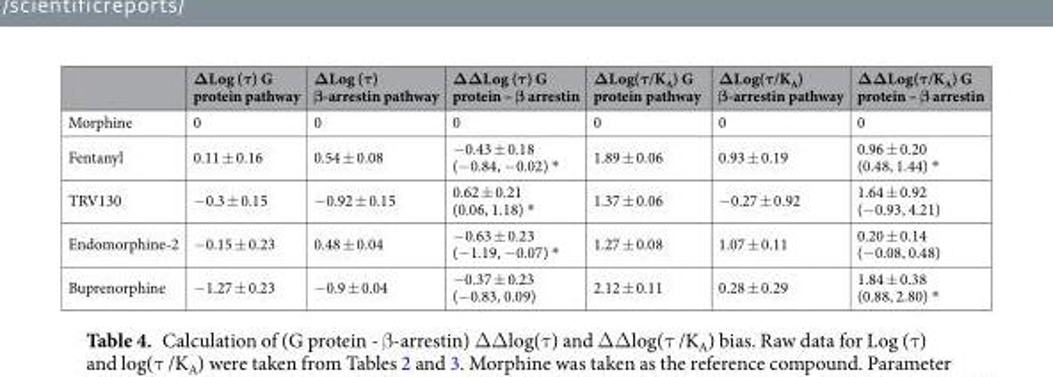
<table><thead><tr><td></td><td>ΔLog (τ) G protein pathway</td><td>ΔLog (τ) β-arrestin pathway</td><td>ΔΔLog (τ) G protein – β arrestin</td><td>ΔLog(τ/K<sub>A</sub>) G protein pathway</td><td>ΔLog(τ/K<sub>A</sub>) β-arrestin pathway</td><td>ΔΔLog(τ/K<sub>A</sub>) G protein – β arrestin</td></tr></thead><tbody><tr><td>Morphine</td><td>0</td><td>0</td><td>0</td><td>0</td><td>0</td><td>0</td></tr><tr><td>Fentanyl</td><td>0.11 ± 0.16</td><td>0.54 ± 0.08</td><td>−0.43 ± 0.18 (−0.84, −0.02) *</td><td>1.89 ± 0.06</td><td>0.93 ± 0.19</td><td>0.96 ± 0.20 (0.48, 1.44) *</td></tr><tr><td>TRV130</td><td>−0.3 ± 0.15</td><td>−0.92 ± 0.15</td><td>0.62 ± 0.21 (0.06, 1.18) *</td><td>1.37 ± 0.06</td><td>−0.27 ± 0.92</td><td>1.64 ± 0.92 (−0.93, 4.21)</td></tr><tr><td>Endomorphine-2</td><td>−0.15 ± 0.23</td><td>0.48 ± 0.04</td><td>−0.63 ± 0.23 (−1.19, −0.07) *</td><td>1.27 ± 0.08</td><td>1.07 ± 0.11</td><td>0.20 ± 0.14 (−0.08, 0.48)</td></tr><tr><td>Buprenorphine</td><td>−1.27 ± 0.23</td><td>−0.9 ± 0.04</td><td>−0.37 ± 0.23 (−0.83, 0.09)</td><td>2.12 ± 0.11</td><td>0.28 ± 0.29</td><td>1.84 ± 0.38 (0.88, 2.80) *</td></tr></tbody></table>